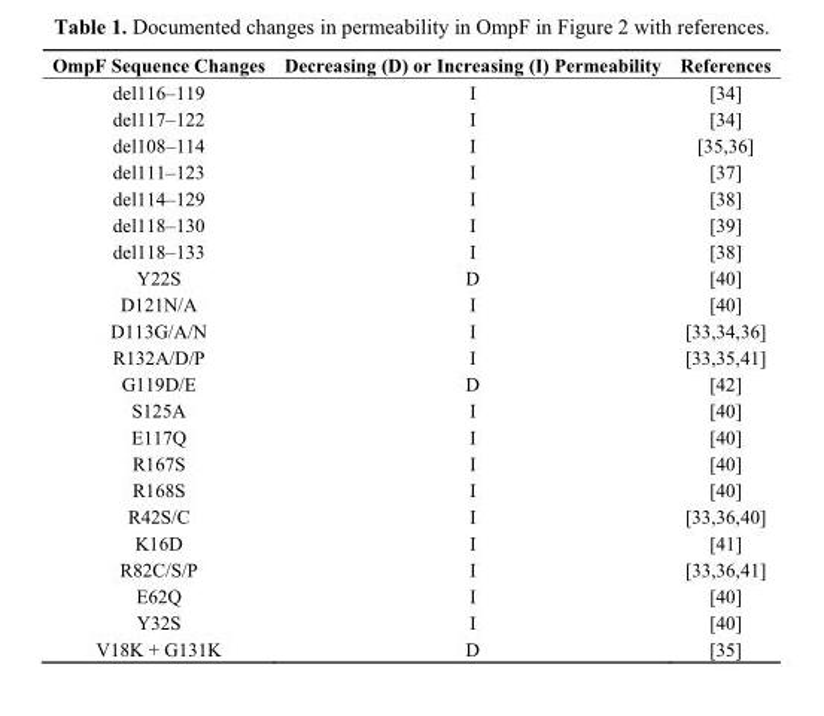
<table><thead><tr><td>OmpF Sequence Changes</td><td>Decreasing (D) or Increasing (I) Permeability</td><td>References</td></tr></thead><tbody><tr><td>del116–119</td><td>I</td><td>[34]</td></tr><tr><td>del117–122</td><td>I</td><td>[34]</td></tr><tr><td>del108–114</td><td>I</td><td>[35,36]</td></tr><tr><td>del111–123</td><td>I</td><td>[37]</td></tr><tr><td>del114–129</td><td>I</td><td>[38]</td></tr><tr><td>del118–130</td><td>I</td><td>[39]</td></tr><tr><td>del118–133</td><td>I</td><td>[38]</td></tr><tr><td>Y22S</td><td>D</td><td>[40]</td></tr><tr><td>D121N/A</td><td>I</td><td>[40]</td></tr><tr><td>D113G/A/N</td><td>I</td><td>[33,34,36]</td></tr><tr><td>R132A/D/P</td><td>I</td><td>[33,35,41]</td></tr><tr><td>G119D/E</td><td>D</td><td>[42]</td></tr><tr><td>S125A</td><td>I</td><td>[40]</td></tr><tr><td>E117Q</td><td>I</td><td>[40]</td></tr><tr><td>R167S</td><td>I</td><td>[40]</td></tr><tr><td>R168S</td><td>I</td><td>[40]</td></tr><tr><td>R42S/C</td><td>I</td><td>[33,36,40]</td></tr><tr><td>K16D</td><td>I</td><td>[41]</td></tr><tr><td>R82C/S/P</td><td>I</td><td>[33,36,41]</td></tr><tr><td>E62Q</td><td>I</td><td>[40]</td></tr><tr><td>Y32S</td><td>I</td><td>[40]</td></tr><tr><td>V18K + G131K</td><td>D</td><td>[35]</td></tr></tbody></table>